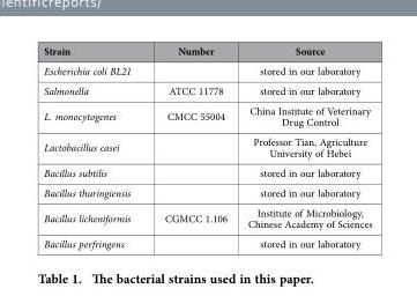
<table><thead><tr><td>Strain</td><td>Number</td><td>Source</td></tr></thead><tbody><tr><td>Escherichia coli BL21</td><td></td><td>stored in our laboratory</td></tr><tr><td>Salmonella</td><td>ATCC 11778</td><td>stored in our laboratory</td></tr><tr><td>L. monocytogenes</td><td>CMCC 55004</td><td>China Institute of Veterinary Drug Control</td></tr><tr><td>Lactobacillus casei</td><td></td><td>Professor Tian, Agriculture University of Hebei</td></tr><tr><td>Bacillus subtilis</td><td></td><td>stored in our laboratory</td></tr><tr><td>Bacillus thuringiensis</td><td></td><td>stored in our laboratory</td></tr><tr><td>Bacillus licheniformis</td><td>CGMCC 1.106</td><td>Institute of Microbiology, Chinese Academy of Sciences</td></tr><tr><td>Bacillus perfringens</td><td></td><td>stored in our laboratory</td></tr></tbody></table>